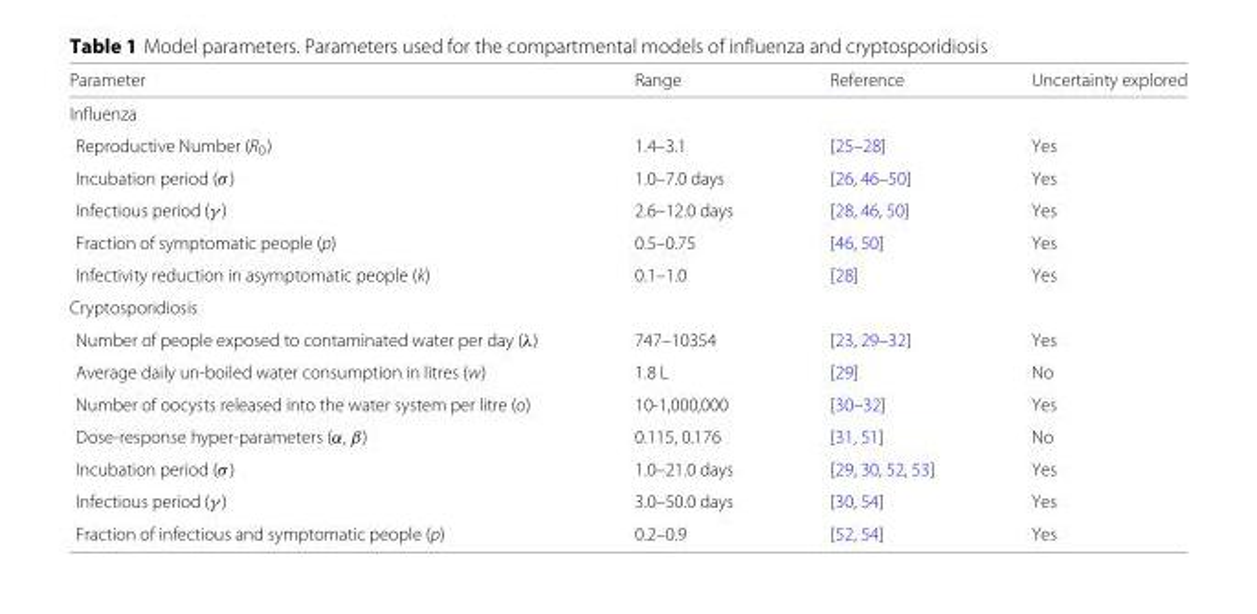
<table><thead><tr><td>Parameter</td><td>Range</td><td>Reference</td><td>Uncertainty explored</td></tr></thead><tbody><tr><td colspan="4">Influenza</td></tr><tr><td>Reproductive Number (R<sub>0</sub>)</td><td>1.4–3.1</td><td>[25–28]</td><td>Yes</td></tr><tr><td>Incubation period (σ)</td><td>1.0–7.0 days</td><td>[26, 46–50]</td><td>Yes</td></tr><tr><td>Infectious period (γ )</td><td>2.6–12.0 days</td><td>[28, 46, 50]</td><td>Yes</td></tr><tr><td>Fraction of symptomatic people (p)</td><td>0.5–0.75</td><td>[46, 50]</td><td>Yes</td></tr><tr><td>Infectivity reduction in asymptomatic people (k)</td><td>0.1–1.0</td><td>[28]</td><td>Yes</td></tr><tr><td colspan="4">Cryptosporidiosis</td></tr><tr><td>Number of people exposed to contaminated water per day (λ)</td><td>747–10354</td><td>[23, 29–32]</td><td>Yes</td></tr><tr><td>Average daily un-boiled water consumption in litres (w)</td><td>1.8 L</td><td>[29]</td><td>No</td></tr><tr><td>Number of oocysts released into the water system per litre (o)</td><td>10-1,000,000</td><td>[30–32]</td><td>Yes</td></tr><tr><td>Dose-response hyper-parameters (α, β)</td><td>0.115, 0.176</td><td>[31, 51]</td><td>No</td></tr><tr><td>Incubation period (σ)</td><td>1.0–21.0 days</td><td>[29, 30, 52, 53]</td><td>Yes</td></tr><tr><td>Infectious period (γ )</td><td>3.0–50.0 days</td><td>[30, 54]</td><td>Yes</td></tr><tr><td>Fraction of infectious and symptomatic people (p)</td><td>0.2–0.9</td><td>[52, 54]</td><td>Yes</td></tr></tbody></table>